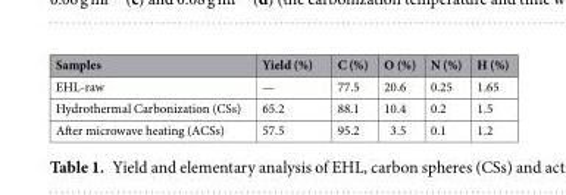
<table><thead><tr><td>Samples</td><td>Yield (%)</td><td>C (%)</td><td>O (%)</td><td>N (%)</td><td>H (%)</td></tr></thead><tbody><tr><td>EHL-raw</td><td>—</td><td>77.5</td><td>20.6</td><td>0.25</td><td>1.65</td></tr><tr><td>Hydrothermal Carbonization (CSs)</td><td>65.2</td><td>88.1</td><td>10.4</td><td>0.2</td><td>1.5</td></tr><tr><td>After microwave heating (ACSs)</td><td>57.5</td><td>95.2</td><td>3.5</td><td>0.1</td><td>1.2</td></tr></tbody></table>